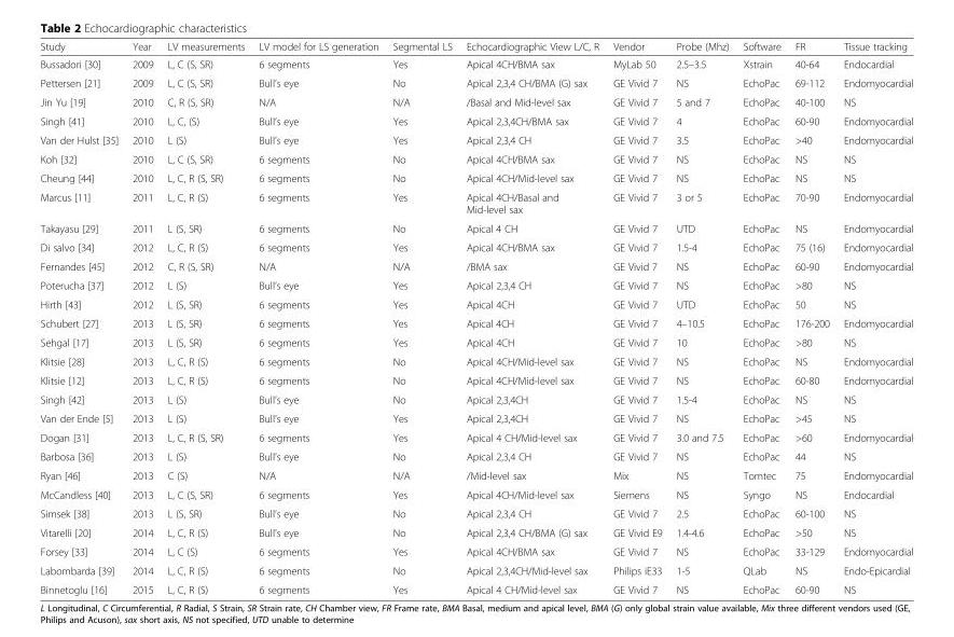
<table><thead><tr><td>Study</td><td>Year</td><td>LV measurements</td><td>LV model for LS generation</td><td>Segmental LS</td><td>Echocardiographic View L/C, R</td><td>Vendor</td><td>Probe (Mhz)</td><td>Software</td><td>FR</td><td>Tissue tracking</td></tr></thead><tbody><tr><td>Bussadori [30]</td><td>2009</td><td>L, C (S, SR)</td><td>6 segments</td><td>Yes</td><td>Apical 4CH/BMA sax</td><td>MyLab 50</td><td>2.5–3.5</td><td>Xstrain</td><td>40-64</td><td>Endocardial</td></tr><tr><td>Pettersen [21]</td><td>2009</td><td>L, C (S, SR)</td><td>Bull’s eye</td><td>No</td><td>Apical 2,3,4 CH/BMA (G) sax</td><td>GE Vivid 7</td><td>NS</td><td>EchoPac</td><td>69-112</td><td>Endomyocardial</td></tr><tr><td>Jin Yu [19]</td><td>2010</td><td>C, R (S, SR)</td><td>N/A</td><td>N/A</td><td>/Basal and Mid-level sax</td><td>GE Vivid 7</td><td>5 and 7</td><td>EchoPac</td><td>40-100</td><td>NS</td></tr><tr><td>Singh [41]</td><td>2010</td><td>L, C, (S)</td><td>Bull’s eye</td><td>Yes</td><td>Apical 2,3,4CH/BMA sax</td><td>GE Vivid 7</td><td>4</td><td>EchoPac</td><td>60-90</td><td>Endomyocardial</td></tr><tr><td>Van der Hulst [35]</td><td>2010</td><td>L (S)</td><td>Bull’s eye</td><td>Yes</td><td>Apical 2,3,4 CH</td><td>GE Vivid 7</td><td>3.5</td><td>EchoPac</td><td>&gt;40</td><td>Endomyocardial</td></tr><tr><td>Koh [32]</td><td>2010</td><td>L, C (S, SR)</td><td>6 segments</td><td>No</td><td>Apical 4CH/BMA sax</td><td>GE Vivid 7</td><td>NS</td><td>EchoPac</td><td>NS</td><td>NS</td></tr><tr><td>Cheung [44]</td><td>2010</td><td>L, C, R (S, SR)</td><td>6 segments</td><td>No</td><td>Apical 4CH/Mid-level sax</td><td>GE Vivid 7</td><td>NS</td><td>EchoPac</td><td>NS</td><td>NS</td></tr><tr><td>Marcus [11]</td><td>2011</td><td>L, C, R (S)</td><td>6 segments</td><td>Yes</td><td>Apical 4CH/Basal and Mid-level sax</td><td>GE Vivid 7</td><td>3 or 5</td><td>EchoPac</td><td>70-90</td><td>Endomyocardial</td></tr><tr><td>Takayasu [29]</td><td>2011</td><td>L (S, SR)</td><td>6 segments</td><td>No</td><td>Apical 4 CH</td><td>GE Vivid 7</td><td>UTD</td><td>EchoPac</td><td>NS</td><td>Endomyocardial</td></tr><tr><td>Di salvo [34]</td><td>2012</td><td>L, C, R (S)</td><td>6 segments</td><td>Yes</td><td>Apical 4CH/BMA sax</td><td>GE Vivid 7</td><td>1.5-4</td><td>EchoPac</td><td>75 (16)</td><td>Endomyocardial</td></tr><tr><td>Fernandes [45]</td><td>2012</td><td>C, R (S, SR)</td><td>N/A</td><td>N/A</td><td>/BMA sax</td><td>GE Vivid 7</td><td>NS</td><td>EchoPac</td><td>60-90</td><td>Endomyocardial</td></tr><tr><td>Poterucha [37]</td><td>2012</td><td>L (S)</td><td>Bull’s eye</td><td>Yes</td><td>Apical 2,3,4 CH</td><td>GE Vivid 7</td><td>NS</td><td>EchoPac</td><td>&gt;80</td><td>NS</td></tr><tr><td>Hirth [43]</td><td>2012</td><td>L (S, SR)</td><td>6 segments</td><td>Yes</td><td>Apical 4CH</td><td>GE Vivid 7</td><td>UTD</td><td>EchoPac</td><td>50</td><td>NS</td></tr><tr><td>Schubert [27]</td><td>2013</td><td>L (S, SR)</td><td>6 segments</td><td>Yes</td><td>Apical 4CH</td><td>GE Vivid 7</td><td>4–10.5</td><td>EchoPac</td><td>176-200</td><td>Endomyocardial</td></tr><tr><td>Sehgal [17]</td><td>2013</td><td>L (S, SR)</td><td>6 segments</td><td>Yes</td><td>Apical 4CH</td><td>GE Vivid 7</td><td>10</td><td>EchoPac</td><td>&gt;80</td><td>NS</td></tr><tr><td>Klitsie [28]</td><td>2013</td><td>L, C, R (S)</td><td>6 segments</td><td>No</td><td>Apical 4CH/Mid-level sax</td><td>GE Vivid 7</td><td>NS</td><td>EchoPac</td><td>NS</td><td>Endomyocardial</td></tr><tr><td>Klitsie [12]</td><td>2013</td><td>L, C, R (S)</td><td>6 segments</td><td>No</td><td>Apical 4CH/Mid-level sax</td><td>GE Vivid 7</td><td>NS</td><td>EchoPac</td><td>60-80</td><td>Endomyocardial</td></tr><tr><td>Singh [42]</td><td>2013</td><td>L (S)</td><td>Bull’s eye</td><td>No</td><td>Apical 2,3,4CH</td><td>GE Vivid 7</td><td>1.5-4</td><td>EchoPac</td><td>NS</td><td>NS</td></tr><tr><td>Van der Ende [5]</td><td>2013</td><td>L (S)</td><td>Bull’s eye</td><td>Yes</td><td>Apical 2,3,4CH</td><td>GE Vivid 7</td><td>NS</td><td>EchoPac</td><td>&gt;45</td><td>NS</td></tr><tr><td>Dogan [31]</td><td>2013</td><td>L, C, R (S, SR)</td><td>6 segments</td><td>Yes</td><td>Apical 4 CH/Mid-level sax</td><td>GE Vivid 7</td><td>3.0 and 7.5</td><td>EchoPac</td><td>&gt;60</td><td>Endomyocardial</td></tr><tr><td>Barbosa [36]</td><td>2013</td><td>L (S)</td><td>Bull’s eye</td><td>No</td><td>Apical 2,3,4 CH</td><td>GE Vivid 7</td><td>NS</td><td>EchoPac</td><td>44</td><td>NS</td></tr><tr><td>Ryan [46]</td><td>2013</td><td>C (S)</td><td>N/A</td><td>N/A</td><td>/Mid-level sax</td><td>Mix</td><td>NS</td><td>Tomtec</td><td>75</td><td>Endomyocardial</td></tr><tr><td>McCandless [40]</td><td>2013</td><td>L, C (S, SR)</td><td>6 segments</td><td>Yes</td><td>Apical 4CH/Mid-level sax</td><td>Siemens</td><td>NS</td><td>Syngo</td><td>NS</td><td>Endocardial</td></tr><tr><td>Simsek [38]</td><td>2013</td><td>L (S, SR)</td><td>Bull’s eye</td><td>No</td><td>Apical 2,3,4 CH</td><td>GE Vivid 7</td><td>2.5</td><td>EchoPac</td><td>60-100</td><td>NS</td></tr><tr><td>Vitarelli [20]</td><td>2014</td><td>L, C, R (S)</td><td>Bull’s eye</td><td>No</td><td>Apical 2,3,4 CH/BMA (G) sax</td><td>GE Vivid E9</td><td>1.4-4.6</td><td>EchoPac</td><td>&gt;50</td><td>NS</td></tr><tr><td>Forsey [33]</td><td>2014</td><td>L, C (S)</td><td>6 segments</td><td>Yes</td><td>Apical 4CH/BMA sax</td><td>GE Vivid 7</td><td>NS</td><td>EchoPac</td><td>33-129</td><td>Endomyocardial</td></tr><tr><td>Labombarda [39]</td><td>2014</td><td>L, C, R (S)</td><td>6 segments</td><td>No</td><td>Apical 2,3,4CH/Mid-level sax</td><td>Philips iE33</td><td>1-5</td><td>QLab</td><td>NS</td><td>Endo-Epicardial</td></tr><tr><td>Binnetoglu [16]</td><td>2015</td><td>L, C, R (S)</td><td>6 segments</td><td>Yes</td><td>Apical 4 CH/Mid-level sax</td><td>GE Vivid 7</td><td>NS</td><td>EchoPac</td><td>60-90</td><td>NS</td></tr></tbody></table>